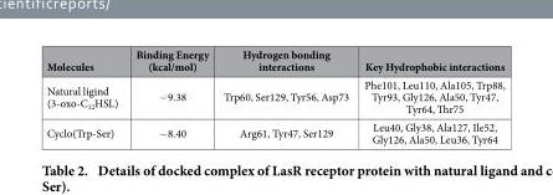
<table><thead><tr><td>Molecules</td><td>Binding Energy (kcal/mol)</td><td>Hydrogen bonding interactions</td><td>Key Hydrophobic interactions</td></tr></thead><tbody><tr><td>Natural ligind (3-oxo-C<sub>12</sub>HSL)</td><td>− 9.38</td><td>Trp60, Ser129, Tyr56, Asp73</td><td>Phe101, Leu110, Ala105, Trp88, Tyr93, Gly126, Ala50, Tyr47, Tyr64, Thr75</td></tr><tr><td>Cyclo(Trp-Ser)</td><td>− 8.40</td><td>Arg61, Tyr47, Ser129</td><td>Leu40, Gly38, Ala127, Ile52, Gly126, Ala50, Leu36, Tyr64</td></tr></tbody></table>